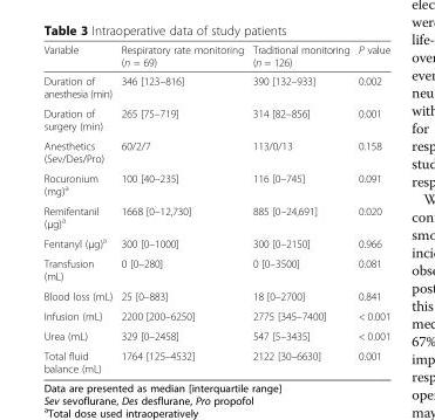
<table><thead><tr><td>Variable</td><td>Respiratory rate monitoring (n = 69)</td><td>Traditional monitoring (n = 126)</td><td>P value</td></tr></thead><tbody><tr><td>Duration of anesthesia (min)</td><td>346 [123–816]</td><td>390 [132–933]</td><td>0.002</td></tr><tr><td>Duration of surgery (min)</td><td>265 [75–719]</td><td>314 [82–856]</td><td>0.001</td></tr><tr><td>Anesthetics (Sev/Des/Pro)</td><td>60/2/7</td><td>113/0/13</td><td>0.158</td></tr><tr><td>Rocuronium (mg)<sup>a</sup></td><td>100 [40–235]</td><td>116 [0–745]</td><td>0.091</td></tr><tr><td>Remifentanil (μg)<sup>a</sup></td><td>1668 [0–12,730]</td><td>885 [0–24,691]</td><td>0.020</td></tr><tr><td>Fentanyl (μg)<sup>a</sup></td><td>300 [0–1000]</td><td>300 [0–2150]</td><td>0.966</td></tr><tr><td>Transfusion (mL)</td><td>0 [0–280]</td><td>0 [0–3500]</td><td>0.081</td></tr><tr><td>Blood loss (mL)</td><td>25 [0–883]</td><td>18 [0–2700]</td><td>0.841</td></tr><tr><td>Infusion (mL)</td><td>2200 [200–6250]</td><td>2775 [345–7400]</td><td>&lt; 0.001</td></tr><tr><td>Urea (mL)</td><td>329 [0–2458]</td><td>547 [5–3435]</td><td>&lt; 0.001</td></tr><tr><td>Total fluid balance (mL)</td><td>1764 [125–4532]</td><td>2122 [30–6630]</td><td>0.001</td></tr></tbody></table>